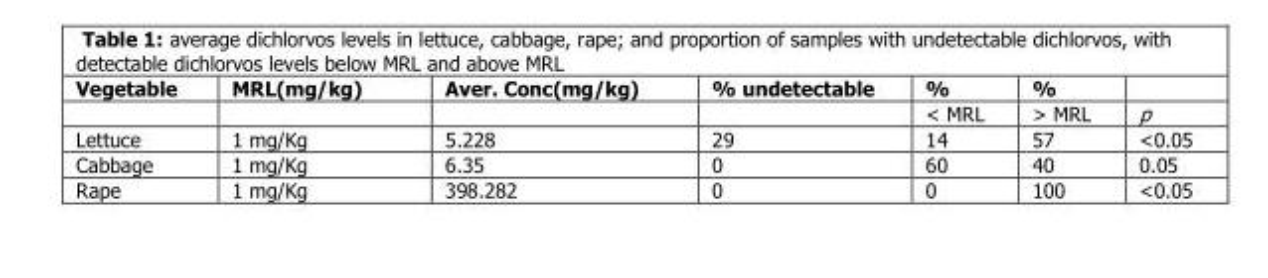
<table><thead><tr><td>Vegetable</td><td>MRL(mg/kg)</td><td>Aver. Conc(mg/kg)</td><td>% undetectable</td><td>%</td><td>%</td><td></td></tr></thead><tbody><tr><td></td><td></td><td></td><td></td><td>˂ MRL</td><td>˃ MRL</td><td>p</td></tr><tr><td>Lettuce</td><td>1 mg/Kg</td><td>5.228</td><td>29</td><td>14</td><td>57</td><td>˂0.05</td></tr><tr><td>Cabbage</td><td>1 mg/Kg</td><td>6.35</td><td>0</td><td>60</td><td>40</td><td>0.05</td></tr><tr><td>Rape</td><td>1 mg/Kg</td><td>398.282</td><td>0</td><td>0</td><td>100</td><td>˂0.05</td></tr></tbody></table>